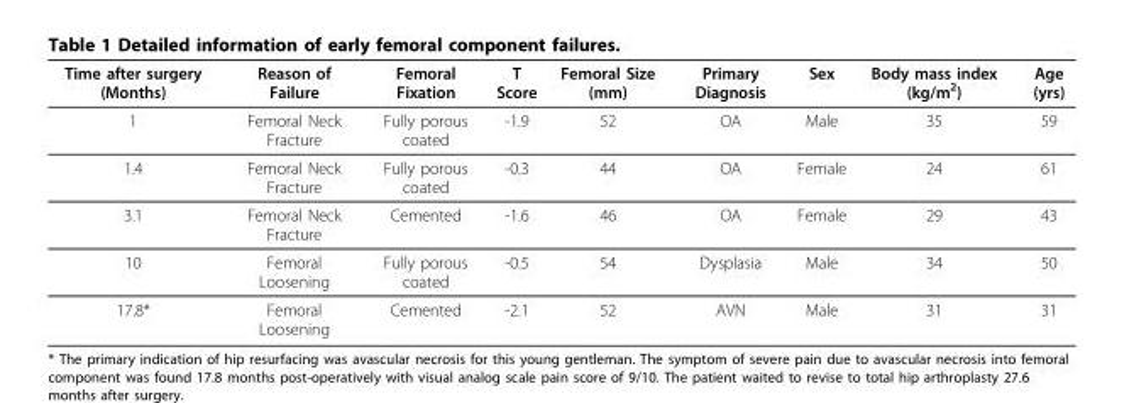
<table><thead><tr><td>Time after surgery (Months)</td><td>Reason of Failure</td><td>Femoral Fixation</td><td>T Score</td><td>Femoral Size (mm)</td><td>Primary Diagnosis</td><td>Sex</td><td>Body mass index (kg/m<sup>2</sup>)</td><td>Age (yrs)</td></tr></thead><tbody><tr><td>1</td><td>Femoral Neck Fracture</td><td>Fully porous coated</td><td>-1.9</td><td>52</td><td>OA</td><td>Male</td><td>35</td><td>59</td></tr><tr><td>1.4</td><td>Femoral Neck Fracture</td><td>Fully porous coated</td><td>-0.3</td><td>44</td><td>OA</td><td>Female</td><td>24</td><td>61</td></tr><tr><td>3.1</td><td>Femoral Neck Fracture</td><td>Cemented</td><td>-1.6</td><td>46</td><td>OA</td><td>Female</td><td>29</td><td>43</td></tr><tr><td>10</td><td>Femoral Loosening</td><td>Fully porous coated</td><td>-0.5</td><td>54</td><td>Dysplasia</td><td>Male</td><td>34</td><td>50</td></tr><tr><td>17.8*</td><td>Femoral Loosening</td><td>Cemented</td><td>-2.1</td><td>52</td><td>AVN</td><td>Male</td><td>31</td><td>31</td></tr></tbody></table>